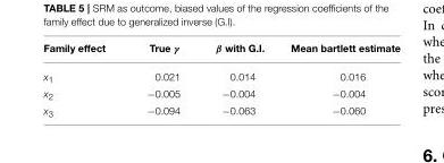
<table><thead><tr><td>Family effect</td><td>True γ</td><td>β with G.I.</td><td>Mean bartlett estimate</td></tr></thead><tbody><tr><td>x<sub>1</sub></td><td>0.021</td><td>0.014</td><td>0.016</td></tr><tr><td>x<sub>2</sub></td><td>−0.005</td><td>−0.004</td><td>−0.004</td></tr><tr><td>x<sub>3</sub></td><td>−0.094</td><td>−0.063</td><td>−0.060</td></tr></tbody></table>